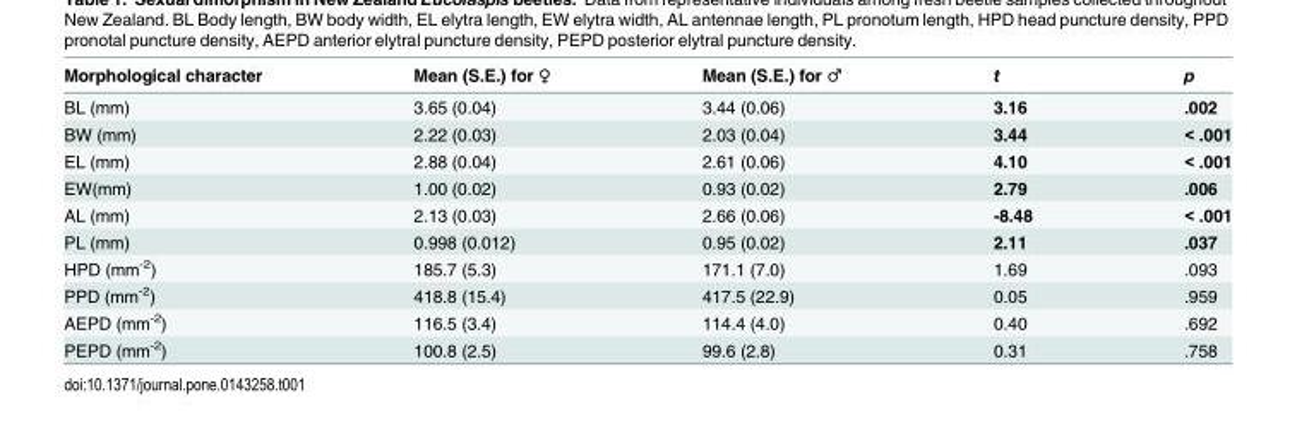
<table><thead><tr><td>Morphological character</td><td>Mean (S.E.) for ♀</td><td>Mean (S.E.) for ♂</td><td>t</td><td>p</td></tr></thead><tbody><tr><td>BL (mm)</td><td>3.65 (0.04)</td><td>3.44 (0.06)</td><td>3.16</td><td>.002</td></tr><tr><td>BW (mm)</td><td>2.22 (0.03)</td><td>2.03 (0.04)</td><td>3.44</td><td>&lt; .001</td></tr><tr><td>EL (mm)</td><td>2.88 (0.04)</td><td>2.61 (0.06)</td><td>4.10</td><td>&lt; .001</td></tr><tr><td>EW(mm)</td><td>1.00 (0.02)</td><td>0.93 (0.02)</td><td>2.79</td><td>.006</td></tr><tr><td>AL (mm)</td><td>2.13 (0.03)</td><td>2.66 (0.06)</td><td>-8.48</td><td>&lt; .001</td></tr><tr><td>PL (mm)</td><td>0.998 (0.012)</td><td>0.95 (0.02)</td><td>2.11</td><td>.037</td></tr><tr><td>HPD (mm<sup>-2</sup>)</td><td>185.7 (5.3)</td><td>171.1 (7.0)</td><td>1.69</td><td>.093</td></tr><tr><td>PPD (mm<sup>-2</sup>)</td><td>418.8 (15.4)</td><td>417.5 (22.9)</td><td>0.05</td><td>.959</td></tr><tr><td>AEPD (mm<sup>-2</sup>)</td><td>116.5 (3.4)</td><td>114.4 (4.0)</td><td>0.40</td><td>.692</td></tr><tr><td>PEPD (mm<sup>-2</sup>)</td><td>100.8 (2.5)</td><td>99.6 (2.8)</td><td>0.31</td><td>.758</td></tr></tbody></table>